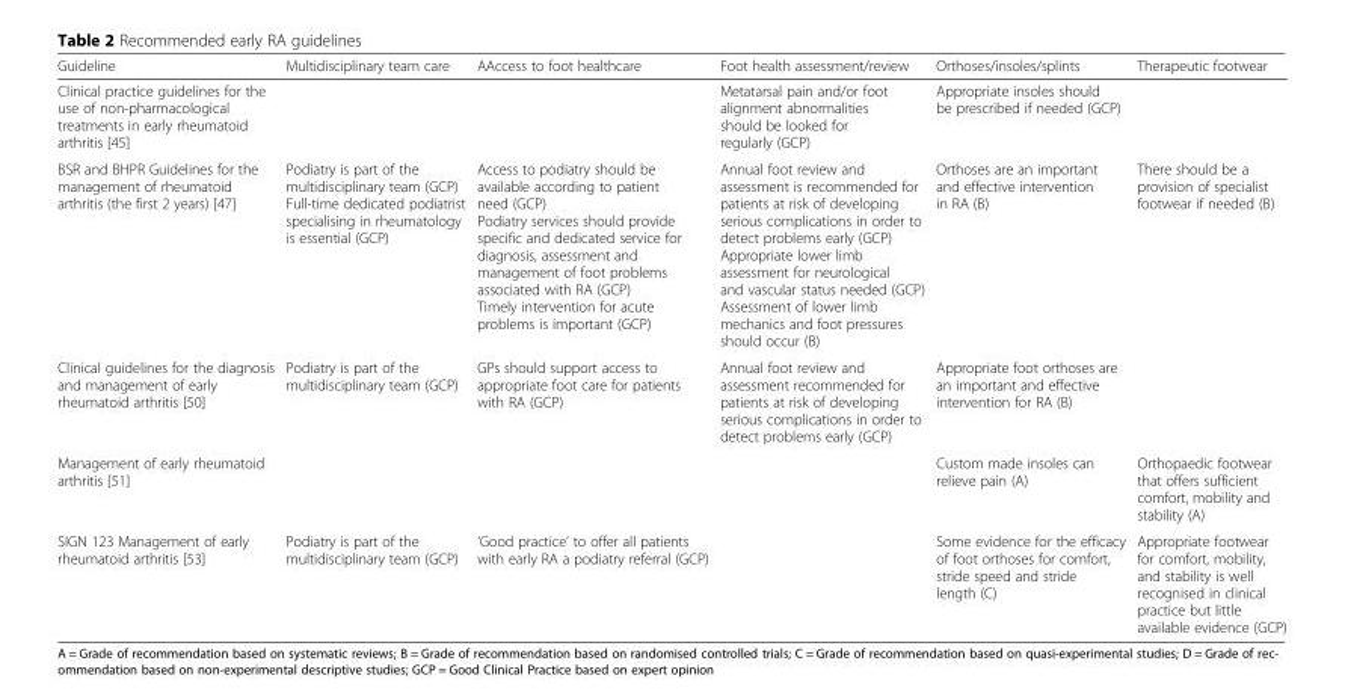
<table><thead><tr><td>Guideline</td><td>Multidisciplinary team care</td><td>AAccess to foot healthcare</td><td>Foot health assessment/review</td><td>Orthoses/insoles/splints</td><td>Therapeutic footwear</td></tr></thead><tbody><tr><td>Clinical practice guidelines for the use of non-pharmacological treatments in early rheumatoid arthritis [45]</td><td></td><td></td><td>Metatarsal pain and/or foot alignment abnormalities should be looked for regularly (GCP)</td><td>Appropriate insoles should be prescribed if needed (GCP)</td><td></td></tr><tr><td>BSR and BHPR Guidelines for the management of rheumatoid arthritis (the first 2 years) [47]</td><td>Podiatry is part of the multidisciplinary team (GCP) Full-time dedicated podiatrist specialising in rheumatology is essential (GCP)</td><td>Access to podiatry should be available according to patient need (GCP) Podiatry services should provide specific and dedicated service for diagnosis, assessment and management of foot problems associated with RA (GCP) Timely intervention for acute problems is important (GCP)</td><td>Annual foot review and assessment is recommended for patients at risk of developing serious complications in order to detect problems early (GCP) Appropriate lower limb assessment for neurological and vascular status needed (GCP) Assessment of lower limb mechanics and foot pressures should occur (B)</td><td>Orthoses are an important and effective intervention in RA (B)</td><td>There should be a provision of specialist footwear if needed (B)</td></tr><tr><td>Clinical guidelines for the diagnosis and management of early rheumatoid arthritis [50]</td><td>Podiatry is part of the multidisciplinary team (GCP)</td><td>GPs should support access to appropriate foot care for patients with RA (GCP)</td><td>Annual foot review and assessment recommended for patients at risk of developing serious complications in order to detect problems early (GCP)</td><td>Appropriate foot orthoses are an important and effective intervention for RA (B)</td><td></td></tr><tr><td>Management of early rheumatoid arthritis [51]</td><td></td><td></td><td></td><td>Custom made insoles can relieve pain (A)</td><td>Orthopaedic footwear that offers sufficient comfort, mobility and stability (A)</td></tr><tr><td>SIGN 123 Management of early rheumatoid arthritis [53]</td><td>Podiatry is part of the multidisciplinary team (GCP)</td><td>‘Good practice’ to offer all patients with early RA a podiatry referral (GCP)</td><td></td><td>Some evidence for the efficacy of foot orthoses for comfort, stride speed and stride length (C)</td><td>Appropriate footwear for comfort, mobility, and stability is well recognised in clinical practice but little available evidence (GCP)</td></tr></tbody></table>